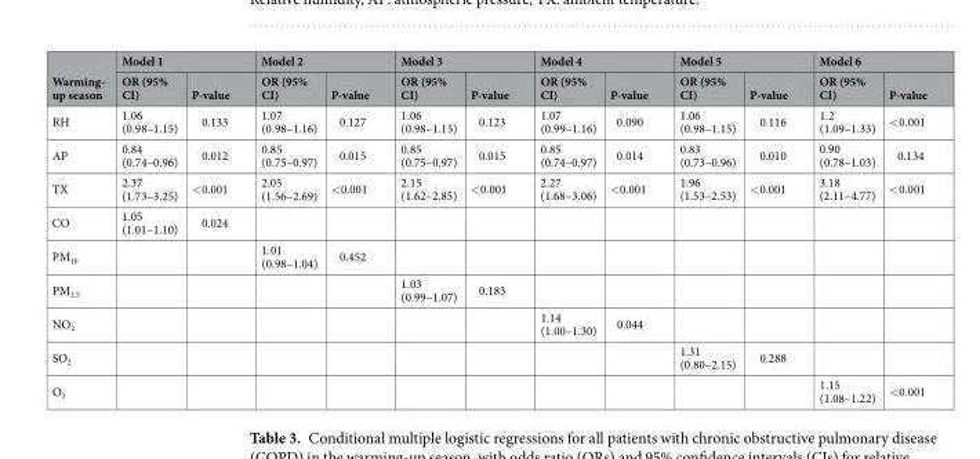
<table><thead><tr><td rowspan="2">Warming- up season</td><td colspan="2">Model 1</td><td colspan="2">Model 2</td><td colspan="2">Model 3</td><td colspan="2">Model 4</td><td colspan="2">Model 5</td><td colspan="2">Model 6</td></tr><tr><td>OR (95% CI)</td><td>P-value</td><td>OR (95% CI)</td><td>P-value</td><td>OR (95% CI)</td><td>P-value</td><td>OR (95% CI)</td><td>P-value</td><td>OR (95% CI)</td><td>P-value</td><td>OR (95% CI)</td><td>P-value</td></tr></thead><tbody><tr><td>RH</td><td>1.06 (0.98–1.15)</td><td>0.133</td><td>1.07 (0.98–1.16)</td><td>0.127</td><td>1.06 (0.98–1.15)</td><td>0.123</td><td>1.07 (0.99–1.16)</td><td>0.090</td><td>1.06 (0.98–1.15)</td><td>0.116</td><td>1.2 (1.09–1.33)</td><td>&lt;0.001</td></tr><tr><td>AP</td><td>0.84 (0.74–0.96)</td><td>0.012</td><td>0.85 (0.75–0.97)</td><td>0.015</td><td>0.85 (0.75–0.97)</td><td>0.015</td><td>0.85 (0.74–0.97)</td><td>0.014</td><td>0.83 (0.73–0.96)</td><td>0.010</td><td>0.90 (0.78–1.03)</td><td>0.134</td></tr><tr><td>TX</td><td>2.37 (1.73–3.25)</td><td>&lt;0.001</td><td>2.05 (1.56–2.69)</td><td>&lt;0.001</td><td>2.15 (1.62–2.85)</td><td>&lt;0.001</td><td>2.27 (1.68–3.06)</td><td>&lt;0.001</td><td>1.96 (1.53–2.53)</td><td>&lt;0.001</td><td>3.18 (2.11–4.77)</td><td>&lt;0.001</td></tr><tr><td>CO</td><td>1.05 (1.01–1.10)</td><td>0.024</td><td></td><td></td><td></td><td></td><td></td><td></td><td></td><td></td><td></td><td></td></tr><tr><td>PM<sub>10</sub></td><td></td><td></td><td>1.01 (0.98–1.04)</td><td>0.452</td><td></td><td></td><td></td><td></td><td></td><td></td><td></td><td></td></tr><tr><td>PM<sub>2.5</sub></td><td></td><td></td><td></td><td></td><td>1.03 (0.99–1.07)</td><td>0.183</td><td></td><td></td><td></td><td></td><td></td><td></td></tr><tr><td>NO<sub>2</sub></td><td></td><td></td><td></td><td></td><td></td><td></td><td>1.14 (1.00–1.30)</td><td>0.044</td><td></td><td></td><td></td><td></td></tr><tr><td>SO<sub>2</sub></td><td></td><td></td><td></td><td></td><td></td><td></td><td></td><td></td><td>1.31 (0.80–2.15)</td><td>0.288</td><td></td><td></td></tr><tr><td>O<sub>3</sub></td><td></td><td></td><td></td><td></td><td></td><td></td><td></td><td></td><td></td><td></td><td>1.15 (1.08–1.22)</td><td>&lt;0.001</td></tr></tbody></table>